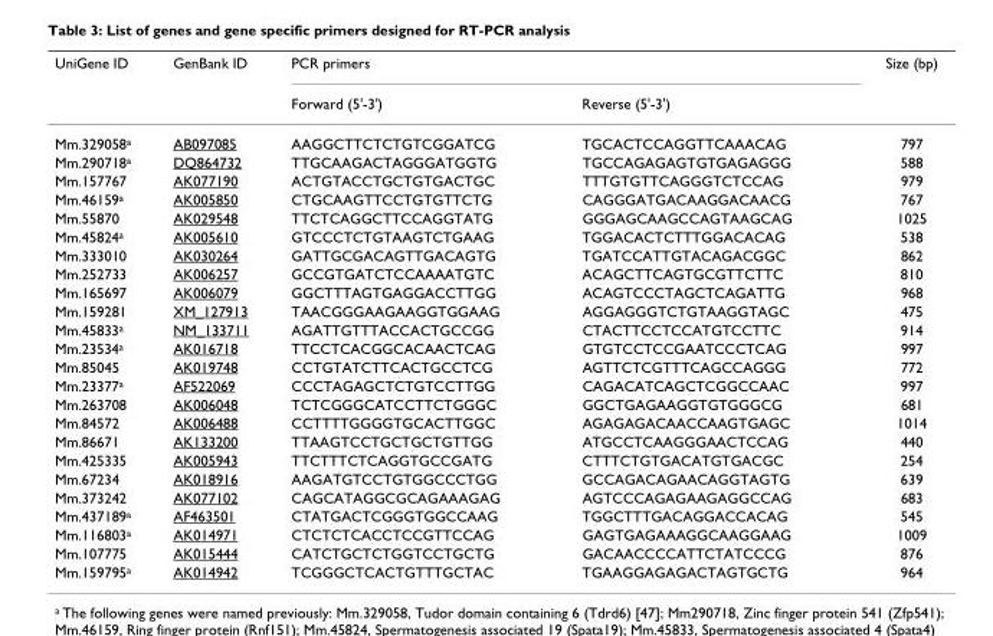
<table><thead><tr><td rowspan="2">UniGene ID</td><td rowspan="2">GenBank ID</td><td colspan="2">PCR primers</td><td rowspan="2">Size (bp)</td></tr><tr><td>Forward (5&#x27;-3&#x27;)</td><td>Reverse (5&#x27;-3&#x27;)</td></tr></thead><tbody><tr><td>Mm.329058<sup>a</sup></td><td>AB097085</td><td>AAGGCTTCTCTGTCGGATCG</td><td>TGCACTCCAGGTTCAAACAG</td><td>797</td></tr><tr><td>Mm.290718<sup>a</sup></td><td>DQ864732</td><td>TTGCAAGACTAGGGATGGTG</td><td>TGCCAGAGAGTGTGAGAGGG</td><td>588</td></tr><tr><td>Mm.157767</td><td>AK077190</td><td>ACTGTACCTGCTGTGACTGC</td><td>TTTGTGTTCAGGGTCTCCAG</td><td>979</td></tr><tr><td>Mm.46159<sup>a</sup></td><td>AK005850</td><td>CTGCAAGTTCCTGTGTTCTG</td><td>CAGGGATGACAAGGACAACG</td><td>767</td></tr><tr><td>Mm.55870</td><td>AK029548</td><td>TTCTCAGGCTTCCAGGTATG</td><td>GGGAGCAAGCCAGTAAGCAG</td><td>1025</td></tr><tr><td>Mm.45824<sup>a</sup></td><td>AK005610</td><td>GTCCCTCTGTAAGTCTGAAG</td><td>TGGACACTCTTTGGACACAG</td><td>538</td></tr><tr><td>Mm.333010</td><td>AK030264</td><td>GATTGCGACAGTTGACAGTG</td><td>TGATCCATTGTACAGACGGC</td><td>862</td></tr><tr><td>Mm.252733</td><td>AK006257</td><td>GCCGTGATCTCCAAAATGTC</td><td>ACAGCTTCAGTGCGTTCTTC</td><td>810</td></tr><tr><td>Mm.165697</td><td>AK006079</td><td>GGCTTTAGTGAGGACCTTGG</td><td>ACAGTCCCTAGCTCAGATTG</td><td>968</td></tr><tr><td>Mm.159281</td><td>XM_127913</td><td>TAACGGGAAGAAGGTGGAAG</td><td>AGGAGGGTCTGTAAGGTAGC</td><td>475</td></tr><tr><td>Mm.45833<sup>a</sup></td><td>NM_133711</td><td>AGATTGTTTACCACTGCCGG</td><td>CTACTTCCTCCATGTCCTTC</td><td>914</td></tr><tr><td>Mm.23534<sup>a</sup></td><td>AK016718</td><td>TTCCTCACGGCACAACTCAG</td><td>GTGTCCTCCGAATCCCTCAG</td><td>997</td></tr><tr><td>Mm.85045</td><td>AK019748</td><td>CCTGTATCTTCACTGCCTCG</td><td>AGTTCTCGTTTCAGCCAGGG</td><td>772</td></tr><tr><td>Mm.23377<sup>a</sup></td><td>AF522069</td><td>CCCTAGAGCTCTGTCCTTGG</td><td>CAGACATCAGCTCGGCCAAC</td><td>997</td></tr><tr><td>Mm.263708</td><td>AK006048</td><td>TCTCGGGCATCCTTCTGGGC</td><td>GGCTGAGAAGGTGTGGGCG</td><td>681</td></tr><tr><td>Mm.84572</td><td>AK006488</td><td>CCTTTTGGGGTGCACTTGGC</td><td>AGAGAGACAACCAAGTGAGC</td><td>1014</td></tr><tr><td>Mm.86671</td><td>AK133200</td><td>TTAAGTCCTGCTGCTGTTGG</td><td>ATGCCTCAAGGGAACTCCAG</td><td>440</td></tr><tr><td>Mm.425335</td><td>AK005943</td><td>TTCTTTCTCAGGTGCCGATG</td><td>CTTTCTGTGACATGTGACGC</td><td>254</td></tr><tr><td>Mm.67234</td><td>AK018916</td><td>AAGATGTCCTGTGGCCCTGG</td><td>GCCAGACAGAACAGGTAGTG</td><td>639</td></tr><tr><td>Mm.373242</td><td>AK077102</td><td>CAGCATAGGCGCAGAAAGAG</td><td>AGTCCCAGAGAAGAGGCCAG</td><td>683</td></tr><tr><td>Mm.437189<sup>a</sup></td><td>AF463501</td><td>CTATGACTCGGGTGGCCAAG</td><td>TGGCTTTGACAGGACCACAG</td><td>545</td></tr><tr><td>Mm.116803<sup>a</sup></td><td>AK014971</td><td>CTCTCTCACCTCCGTTCCAG</td><td>GAGTGAGAAAGGCAAGGAAG</td><td>1009</td></tr><tr><td>Mm.107775</td><td>AK015444</td><td>CATCTGCTCTGGTCCTGCTG</td><td>GACAACCCCATTCTATCCCG</td><td>876</td></tr><tr><td>Mm.159795<sup>a</sup></td><td>AK014942</td><td>TCGGGCTCACTGTTTGCTAC</td><td>TGAAGGAGAGACTAGTGCTG</td><td>964</td></tr></tbody></table>